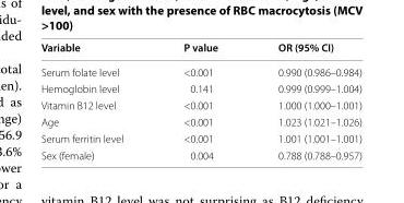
<table><thead><tr><td>Variable</td><td>P value</td><td>OR (95% CI)</td></tr></thead><tbody><tr><td>Serum folate level</td><td>&lt;0.001</td><td>0.990 (0.986–0.984)</td></tr><tr><td>Hemoglobin level</td><td>0.141</td><td>0.999 (0.999–1.004)</td></tr><tr><td>Vitamin B12 level</td><td>&lt;0.001</td><td>1.000 (1.000–1.001)</td></tr><tr><td>Age</td><td>&lt;0.001</td><td>1.023 (1.021–1.026)</td></tr><tr><td>Serum ferritin level</td><td>&lt;0.001</td><td>1.001 (1.001–1.001)</td></tr><tr><td>Sex (female)</td><td>0.004</td><td>0.788 (0.788–0.957)</td></tr></tbody></table>